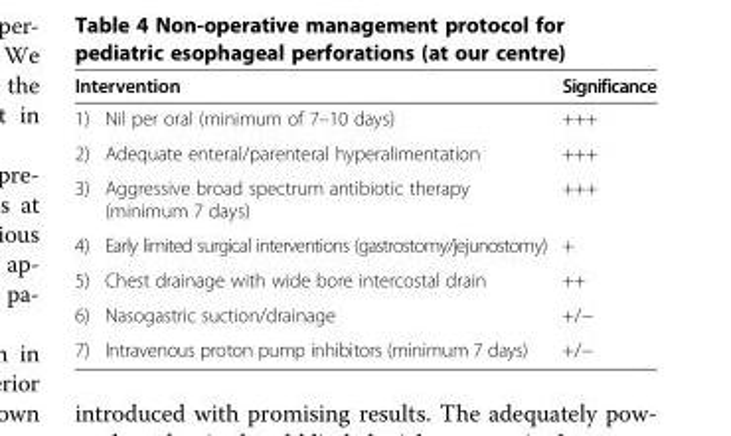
<table><thead><tr><td colspan="2">Intervention</td><td rowspan="2">Significance +++</td></tr><tr><td>1)</td><td>Nil per oral (minimum of 7–10 days)</td></tr></thead><tbody><tr><td>2)</td><td>Adequate enteral/parenteral hyperalimentation</td><td>+++</td></tr><tr><td>3)</td><td>Aggressive broad spectrum antibiotic therapy (minimum 7 days)</td><td>+++</td></tr><tr><td>4)</td><td>Early limited surgical interventions (gastrostomy/jejunostomy)</td><td>+</td></tr><tr><td>5)</td><td>Chest drainage with wide bore intercostal drain</td><td>++</td></tr><tr><td>6)</td><td>Nasogastric suction/drainage</td><td>+/−</td></tr><tr><td>7)</td><td>Intravenous proton pump inhibitors (minimum 7 days)</td><td>+/−</td></tr></tbody></table>